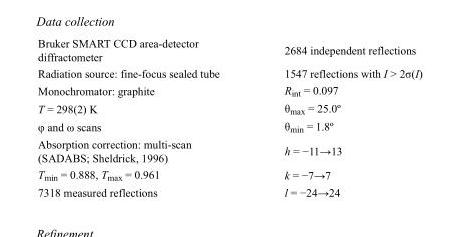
<table><tbody><tr><td>Bruker SMART CCD area-detector diffractometer</td><td>2684 independent reflections</td></tr><tr><td>Radiation source: fine-focus sealed tube</td><td>1547 reflections with I &gt; 2σ(I)</td></tr><tr><td>Monochromator: graphite</td><td>R<sub>int</sub> = 0.097</td></tr><tr><td>T = 298(2) K</td><td>θ<sub>max</sub> = 25.0º</td></tr><tr><td>φ and ω scans</td><td>θ<sub>min</sub> = 1.8º</td></tr><tr><td>Absorption correction: multi-scan (SADABS; Sheldrick, 1996)</td><td>h = −11→13</td></tr><tr><td>T<sub>min</sub> = 0.888, T<sub>max</sub> = 0.961</td><td>k = −7→7</td></tr><tr><td>7318 measured reflections</td><td>l = −24→24</td></tr></tbody></table>